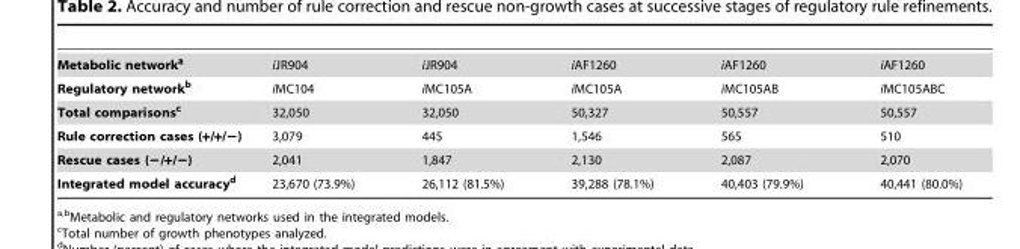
<table><tbody><tr><td>Metabolic networka</td><td>iJR904</td><td>iJR904</td><td>iAF1260</td><td>iAF1260</td><td>iAF1260</td></tr><tr><td>Regulatory networkb</td><td>iMC104</td><td>iMC105A</td><td>iMC105A</td><td>iMC105AB</td><td>iMC105ABC</td></tr><tr><td>Total comparisonsc</td><td>32,050</td><td>32,050</td><td>50,327</td><td>50,557</td><td>50,557</td></tr><tr><td>Rule correction cases (+/+/−)</td><td>3,079</td><td>445</td><td>1,546</td><td>565</td><td>510</td></tr><tr><td>Rescue cases (−/+/−)</td><td>2,041</td><td>1,847</td><td>2,130</td><td>2,087</td><td>2,070</td></tr><tr><td>Integrated model accuracyd</td><td>23,670 (73.9%)</td><td>26,112 (81.5%)</td><td>39,288 (78.1%)</td><td>40,403 (79.9%)</td><td>40,441 (80.0%)</td></tr></tbody></table>